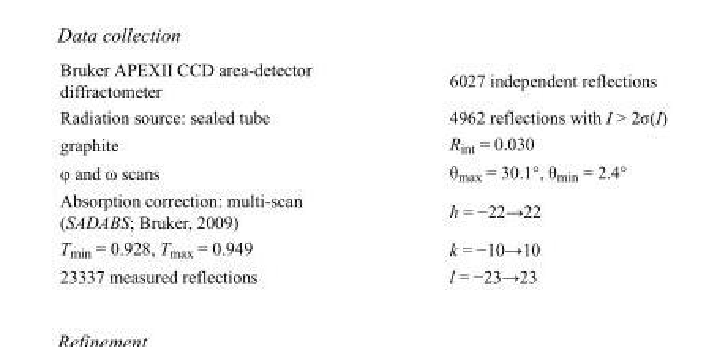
<table><tbody><tr><td>Bruker APEXII CCD area-detector diffractometer</td><td>6027 independent reflections</td></tr><tr><td>Radiation source: sealed tube</td><td>4962 reflections with I &gt; 2σ(I)</td></tr><tr><td>graphite</td><td>R<sub>int</sub> = 0.030</td></tr><tr><td>φ and ω scans</td><td>θ<sub>max</sub> = 30.1°, θ<sub>min</sub> = 2.4°</td></tr><tr><td>Absorption correction: multi-scan (SADABS; Bruker, 2009)</td><td>h = −22→22</td></tr><tr><td>T<sub>min</sub> = 0.928, T<sub>max</sub> = 0.949</td><td>k = −10→10</td></tr><tr><td>23337 measured reflections</td><td>l = −23→23</td></tr></tbody></table>